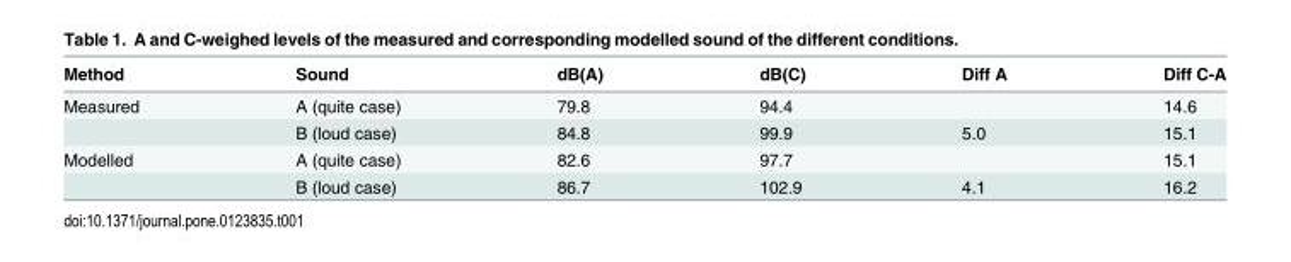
<table><thead><tr><td>Method</td><td>Sound</td><td>dB(A)</td><td>dB(C)</td><td>Diff A</td><td>Diff C-A</td></tr></thead><tbody><tr><td rowspan="2">Measured</td><td>A (quite case)</td><td>79.8</td><td>94.4</td><td></td><td>14.6</td></tr><tr><td>B (loud case)</td><td>84.8</td><td>99.9</td><td>5.0</td><td>15.1</td></tr><tr><td rowspan="2">Modelled</td><td>A (quite case)</td><td>82.6</td><td>97.7</td><td></td><td>15.1</td></tr><tr><td>B (loud case)</td><td>86.7</td><td>102.9</td><td>4.1</td><td>16.2</td></tr></tbody></table>